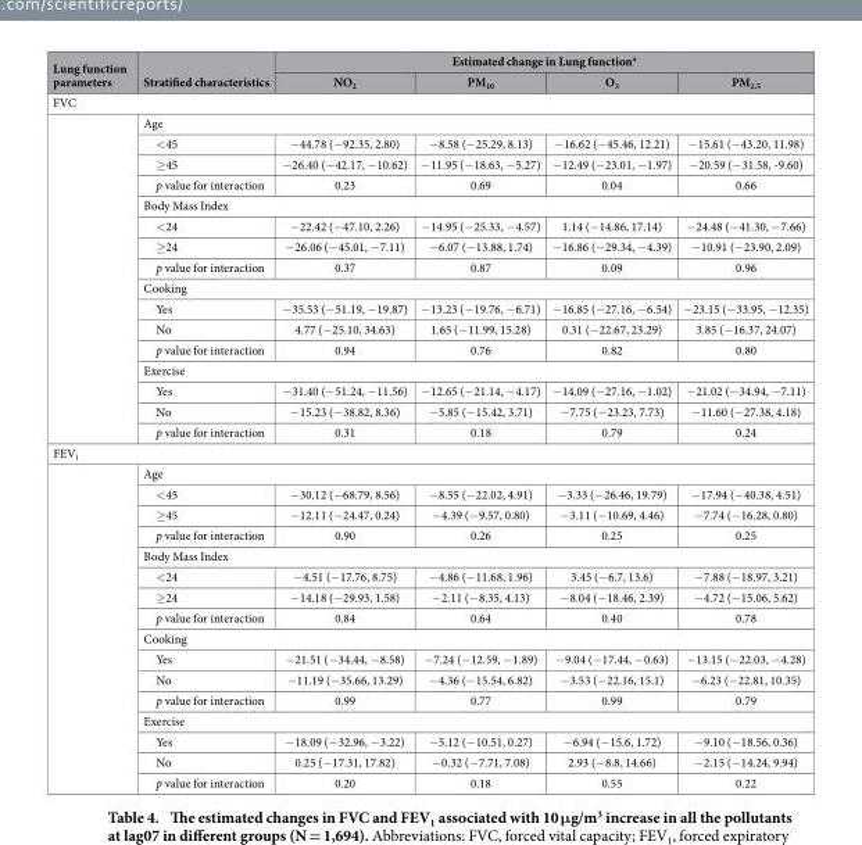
<table><thead><tr><td rowspan="2">Lung function parameters</td><td rowspan="2">Stratified characteristics</td><td colspan="4">Estimated change in Lung function*</td></tr><tr><td>NO<sub>2</sub></td><td>PM<sub>10</sub></td><td>O<sub>3</sub></td><td>PM<sub>2.5</sub></td></tr></thead><tbody><tr><td colspan="6">FVC</td></tr><tr><td rowspan="16"></td><td colspan="5">Age</td></tr><tr><td>&lt; 45</td><td>− 44.78 (− 92.35, 2.80)</td><td>− 8.58 (− 25.29, 8.13)</td><td>− 16.62 (− 45.46, 12.21)</td><td>− 15.61 (− 43.20, 11.98)</td></tr><tr><td>≥ 45</td><td>− 26.40 (− 42.17, − 10.62)</td><td>− 11.95 (− 18.63, − 5.27)</td><td>− 12.49 (− 23.01, − 1.97)</td><td>− 20.59 (− 31.58, -9.60)</td></tr><tr><td>p value for interaction</td><td>0.23</td><td>0.69</td><td>0.04</td><td>0.66</td></tr><tr><td colspan="5">Body Mass Index</td></tr><tr><td>&lt; 24</td><td>− 22.42 (− 47.10, 2.26)</td><td>− 14.95 (− 25.33, − 4.57)</td><td>1.14 (− 14.86, 17.14)</td><td>− 24.48 (− 41.30, − 7.66)</td></tr><tr><td>≥ 24</td><td>− 26.06 (− 45.01, − 7.11)</td><td>− 6.07 (− 13.88, 1.74)</td><td>− 16.86 (− 29.34, − 4.39)</td><td>− 10.91 (− 23.90, 2.09)</td></tr><tr><td>p value for interaction</td><td>0.37</td><td>0.87</td><td>0.09</td><td>0.96</td></tr><tr><td colspan="5">Cooking</td></tr><tr><td>Yes</td><td>− 35.53 (− 51.19, − 19.87)</td><td>− 13.23 (− 19.76, − 6.71)</td><td>− 16.85 (− 27.16, − 6.54)</td><td>− 23.15 (− 33.95, − 12.35)</td></tr><tr><td>No</td><td>4.77 (− 25.10, 34.63)</td><td>1.65 (− 11.99, 15.28)</td><td>0.31 (− 22.67, 23.29)</td><td>3.85 (− 16.37, 24.07)</td></tr><tr><td>p value for interaction</td><td>0.94</td><td>0.76</td><td>0.82</td><td>0.80</td></tr><tr><td colspan="5">Exercise</td></tr><tr><td>Yes</td><td>− 31.40 (− 51.24, − 11.56)</td><td>− 12.65 (− 21.14, − 4.17)</td><td>− 14.09 (− 27.16, − 1.02)</td><td>− 21.02 (− 34.94, − 7.11)</td></tr><tr><td>No</td><td>− 15.23 (− 38.82, 8.36)</td><td>− 5.85 (− 15.42, 3.71)</td><td>− 7.75 (− 23.23, 7.73)</td><td>− 11.60 (− 27.38, 4.18)</td></tr><tr><td>p value for interaction</td><td>0.31</td><td>0.18</td><td>0.79</td><td>0.24</td></tr><tr><td colspan="6">FEV<sub>1</sub></td></tr><tr><td rowspan="16"></td><td colspan="5">Age</td></tr><tr><td>&lt; 45</td><td>− 30.12 (− 68.79, 8.56)</td><td>− 8.55 (− 22.02, 4.91)</td><td>− 3.33 (− 26.46, 19.79)</td><td>− 17.94 (− 40.38, 4.51)</td></tr><tr><td>≥ 45</td><td>− 12.11 (− 24.47, 0.24)</td><td>− 4.39 (− 9.57, 0.80)</td><td>− 3.11 (− 10.69, 4.46)</td><td>− 7.74 (− 16.28, 0.80)</td></tr><tr><td>p value for interaction</td><td>0.90</td><td>0.26</td><td>0.25</td><td>0.25</td></tr><tr><td>Body Mass Index</td><td></td><td></td><td></td><td></td></tr><tr><td>&lt; 24</td><td>− 4.51 (− 17.76, 8.75)</td><td>− 4.86 (− 11.68, 1.96)</td><td>3.45 (− 6.7, 13.6)</td><td>− 7.88 (− 18.97, 3.21)</td></tr><tr><td>≥ 24</td><td>− 14.18 (− 29.93, 1.58)</td><td>− 2.11 (− 8.35, 4.13)</td><td>− 8.04 (− 18.46, 2.39)</td><td>− 4.72 (− 15.06, 5.62)</td></tr><tr><td>p value for interaction</td><td>0.84</td><td>0.64</td><td>0.40</td><td>0.78</td></tr><tr><td>Cooking</td><td></td><td></td><td></td><td></td></tr><tr><td>Yes</td><td>− 21.51 (− 34.44, − 8.58)</td><td>− 7.24 (− 12.59, − 1.89)</td><td>− 9.04 (− 17.44, − 0.63)</td><td>− 13.15 (− 22.03, − 4.28)</td></tr><tr><td>No</td><td>− 11.19 (− 35.66, 13.29)</td><td>− 4.36 (− 15.54, 6.82)</td><td>− 3.53 (− 22.16, 15.1)</td><td>− 6.23 (− 22.81, 10.35)</td></tr><tr><td>p value for interaction</td><td>0.99</td><td>0.77</td><td>0.99</td><td>0.79</td></tr><tr><td>Exercise</td><td></td><td></td><td></td><td></td></tr><tr><td>Yes</td><td>− 18.09 (− 32.96, − 3.22)</td><td>− 5.12 (− 10.51, 0.27)</td><td>− 6.94 (− 15.6, 1.72)</td><td>− 9.10 (− 18.56, 0.36)</td></tr><tr><td>No</td><td>0.25 (− 17.31, 17.82)</td><td>− 0.32 (− 7.71, 7.08)</td><td>2.93 (− 8.8, 14.66)</td><td>− 2.15 (− 14.24, 9.94)</td></tr><tr><td>p value for interaction</td><td>0.20</td><td>0.18</td><td>0.55</td><td>0.22</td></tr></tbody></table>